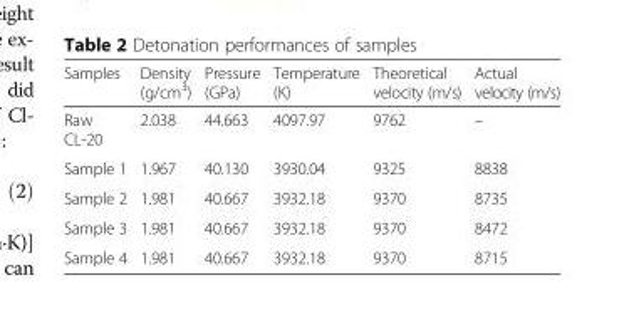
<table><thead><tr><td>Samples</td><td>Density (g/cm<sup>3</sup>)</td><td>Pressure (GPa)</td><td>Temperature (K)</td><td>Theoretical velocity (m/s)</td><td>Actual velocity (m/s)</td></tr></thead><tbody><tr><td>Raw CL-20</td><td>2.038</td><td>44.663</td><td>4097.97</td><td>9762</td><td>–</td></tr><tr><td>Sample 1</td><td>1.967</td><td>40.130</td><td>3930.04</td><td>9325</td><td>8838</td></tr><tr><td>Sample 2</td><td>1.981</td><td>40.667</td><td>3932.18</td><td>9370</td><td>8735</td></tr><tr><td>Sample 3</td><td>1.981</td><td>40.667</td><td>3932.18</td><td>9370</td><td>8472</td></tr><tr><td>Sample 4</td><td>1.981</td><td>40.667</td><td>3932.18</td><td>9370</td><td>8715</td></tr></tbody></table>